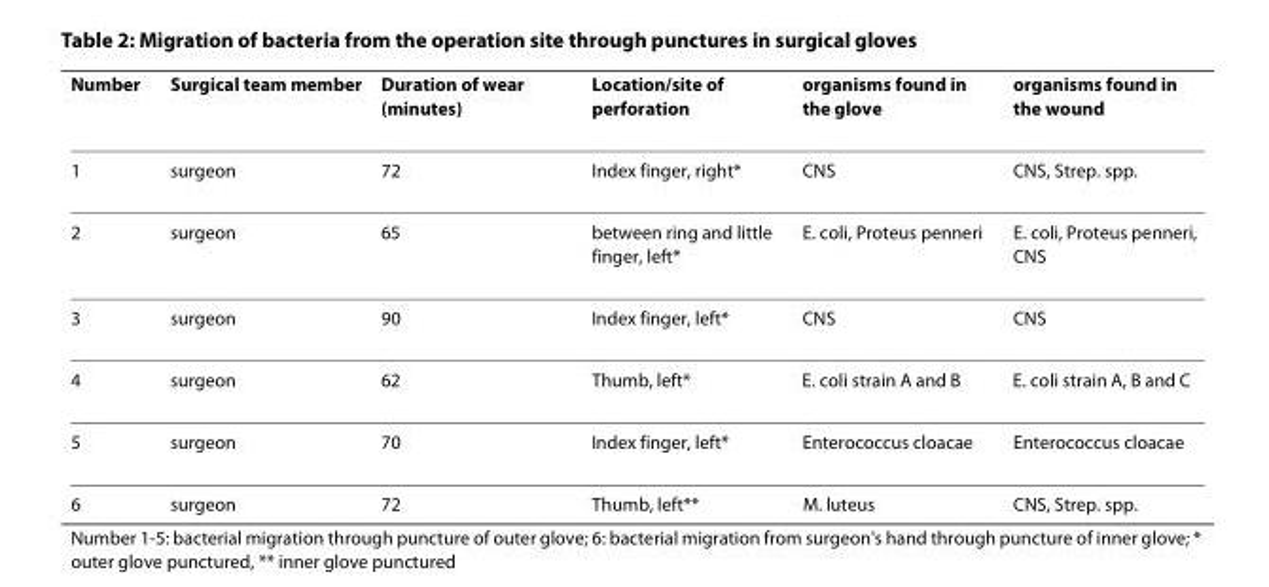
<table><thead><tr><td>Number</td><td>Surgical team member</td><td>Duration of wear (minutes)</td><td>Location/site of perforation</td><td>organisms found in the glove</td><td>organisms found in the wound</td></tr></thead><tbody><tr><td>1</td><td>surgeon</td><td>72</td><td>Index finger, right*</td><td>CNS</td><td>CNS, Strep. spp.</td></tr><tr><td>2</td><td>surgeon</td><td>65</td><td>between ring and little finger, left*</td><td>E. coli, Proteus penneri</td><td>E. coli, Proteus penneri, CNS</td></tr><tr><td>3</td><td>surgeon</td><td>90</td><td>Index finger, left*</td><td>CNS</td><td>CNS</td></tr><tr><td>4</td><td>surgeon</td><td>62</td><td>Thumb, left*</td><td>E. coli strain A and B</td><td>E. coli strain A, B and C</td></tr><tr><td>5</td><td>surgeon</td><td>70</td><td>Index finger, left*</td><td>Enterococcus cloacae</td><td>Enterococcus cloacae</td></tr><tr><td>6</td><td>surgeon</td><td>72</td><td>Thumb, left**</td><td>M. luteus</td><td>CNS, Strep. spp.</td></tr></tbody></table>